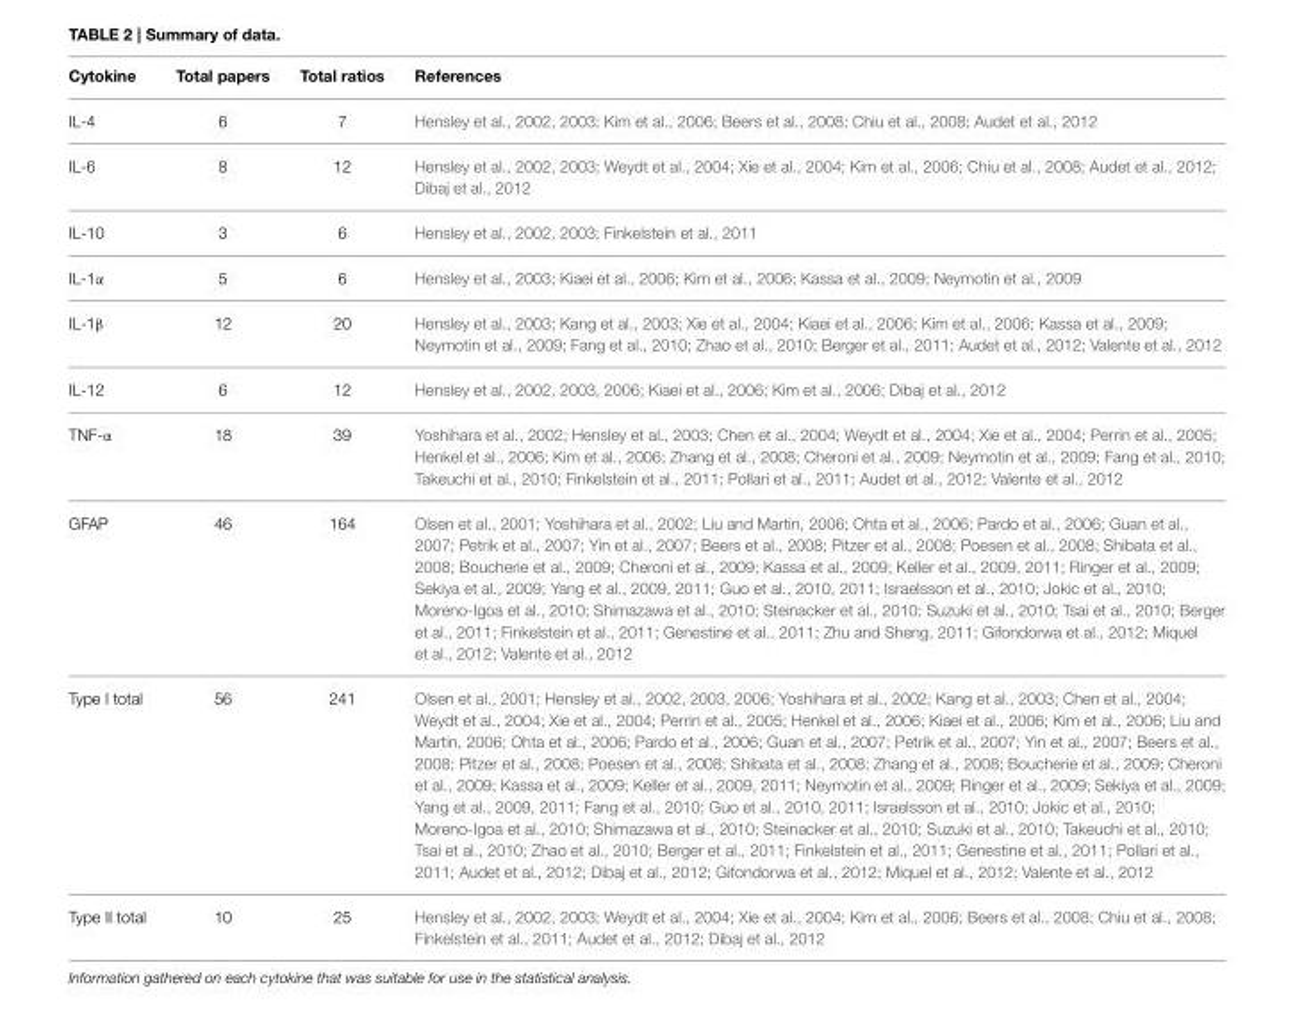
<table><thead><tr><td>Cytokine</td><td>Total papers</td><td>Total ratios</td><td>References</td></tr></thead><tbody><tr><td>IL-4</td><td>6</td><td>7</td><td>Hensley et al., 2002, 2003; Kim et al., 2006; Beers et al., 2008; Chiu et al., 2008; Audet et al., 2012</td></tr><tr><td>IL-6</td><td>8</td><td>12</td><td>Hensley et al., 2002, 2003; Weydt et al., 2004; Xie et al., 2004; Kim et al., 2006; Chiu et al., 2008; Audet et al., 2012; Dibaj et al., 2012</td></tr><tr><td>IL-10</td><td>3</td><td>6</td><td>Hensley et al., 2002, 2003; Finkelstein et al., 2011</td></tr><tr><td>IL-1α</td><td>5</td><td>6</td><td>Hensley et al., 2003; Kiaei et al., 2006; Kim et al., 2006; Kassa et al., 2009; Neymotin et al., 2009</td></tr><tr><td>IL-1β</td><td>12</td><td>20</td><td>Hensley et al., 2003; Kang et al., 2003; Xie et al., 2004; Kiaei et al., 2006; Kim et al., 2006; Kassa et al., 2009; Neymotin et al., 2009; Fang et al., 2010; Zhao et al., 2010; Berger et al., 2011; Audet et al., 2012; Valente et al., 2012</td></tr><tr><td>IL-12</td><td>6</td><td>12</td><td>Hensley et al., 2002, 2003, 2006; Kiaei et al., 2006; Kim et al., 2006; Dibaj et al., 2012</td></tr><tr><td>TNF-α</td><td>18</td><td>39</td><td>Yoshihara et al., 2002; Hensley et al., 2003; Chen et al., 2004; Weydt et al., 2004; Xie et al., 2004; Perrin et al., 2005; Henkel et al., 2006; Kim et al., 2006; Zhang et al., 2008; Cheroni et al., 2009; Neymotin et al., 2009; Fang et al., 2010; Takeuchi et al., 2010; Finkelstein et al., 2011; Pollari et al., 2011; Audet et al., 2012; Valente et al., 2012</td></tr><tr><td>GFAP</td><td>46</td><td>164</td><td>Olsen et al., 2001; Yoshihara et al., 2002; Liu and Martin, 2006; Ohta et al., 2006; Pardo et al., 2006; Guan et al., 2007; Petrik et al., 2007; Yin et al., 2007; Beers et al., 2008; Pitzer et al., 2008; Poesen et al., 2008; Shibata et al., 2008; Boucherie et al., 2009; Cheroni et al., 2009; Kassa et al., 2009; Keller et al., 2009, 2011; Ringer et al., 2009; Sekiya et al., 2009; Yang et al., 2009, 2011; Guo et al., 2010, 2011; Israelsson et al., 2010; Jokic et al., 2010; Moreno-Igoa et al., 2010; Shimazawa et al., 2010; Steinacker et al., 2010; Suzuki et al., 2010; Tsai et al., 2010; Berger et al., 2011; Finkelstein et al., 2011; Genestine et al., 2011; Zhu and Sheng, 2011; Gifondorwa et al., 2012; Miquel et al., 2012; Valente et al., 2012</td></tr><tr><td>Type I total</td><td>56</td><td>241</td><td>Olsen et al., 2001; Hensley et al., 2002, 2003, 2006; Yoshihara et al., 2002; Kang et al., 2003; Chen et al., 2004; Weydt et al., 2004; Xie et al., 2004; Perrin et al., 2005; Henkel et al., 2006; Kiaei et al., 2006; Kim et al., 2006; Liu and Martin, 2006; Ohta et al., 2006; Pardo et al., 2006; Guan et al., 2007; Petrik et al., 2007; Yin et al., 2007; Beers et al., 2008; Pitzer et al., 2008; Poesen et al., 2008; Shibata et al., 2008; Zhang et al., 2008; Boucherie et al., 2009; Cheroni et al., 2009; Kassa et al., 2009; Keller et al., 2009, 2011; Neymotin et al., 2009; Ringer et al., 2009; Sekiya et al., 2009; Yang et al., 2009, 2011; Fang et al., 2010; Guo et al., 2010, 2011; Israelsson et al., 2010; Jokic et al., 2010; Moreno-Igoa et al., 2010; Shimazawa et al., 2010; Steinacker et al., 2010; Suzuki et al., 2010; Takeuchi et al., 2010; Tsai et al., 2010; Zhao et al., 2010; Berger et al., 2011; Finkelstein et al., 2011; Genestine et al., 2011; Pollari et al., 2011; Audet et al., 2012; Dibaj et al., 2012; Gifondorwa et al., 2012; Miquel et al., 2012; Valente et al., 2012</td></tr><tr><td>Type II total</td><td>10</td><td>25</td><td>Hensley et al., 2002, 2003; Weydt et al., 2004; Xie et al., 2004; Kim et al., 2006; Beers et al., 2008; Chiu et al., 2008; Finkelstein et al., 2011; Audet et al., 2012; Dibaj et al., 2012</td></tr></tbody></table>